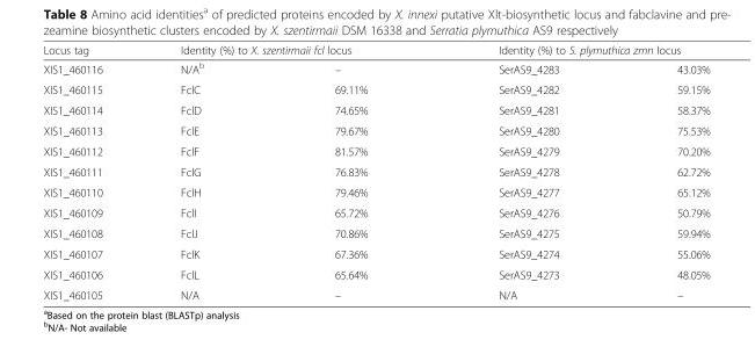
<table><thead><tr><td rowspan="2">Locus tag XIS1_460116</td><td colspan="2">Identity (%) to X. szentirmaii fcl locus</td><td colspan="2">Identity (%) to S. plymuthica zmn locus</td></tr><tr><td>N/A<sup>b</sup></td><td>–</td><td>SerAS9_4283</td><td>43.03%</td></tr></thead><tbody><tr><td>XIS1_460115</td><td>FclC</td><td>69.11%</td><td>SerAS9_4282</td><td>59.15%</td></tr><tr><td>XIS1_460114</td><td>FclD</td><td>74.65%</td><td>SerAS9_4281</td><td>58.37%</td></tr><tr><td>XIS1_460113</td><td>FclE</td><td>79.67%</td><td>SerAS9_4280</td><td>75.53%</td></tr><tr><td>XIS1_460112</td><td>FclF</td><td>81.57%</td><td>SerAS9_4279</td><td>70.20%</td></tr><tr><td>XIS1_460111</td><td>FclG</td><td>76.83%</td><td>SerAS9_4278</td><td>62.72%</td></tr><tr><td>XIS1_460110</td><td>FclH</td><td>79.46%</td><td>SerAS9_4277</td><td>65.12%</td></tr><tr><td>XIS1_460109</td><td>FclI</td><td>65.72%</td><td>SerAS9_4276</td><td>50.79%</td></tr><tr><td>XIS1_460108</td><td>FclJ</td><td>70.86%</td><td>SerAS9_4275</td><td>59.94%</td></tr><tr><td>XIS1_460107</td><td>FclK</td><td>67.36%</td><td>SerAS9_4274</td><td>55.06%</td></tr><tr><td>XIS1_460106</td><td>FclL</td><td>65.64%</td><td>SerAS9_4273</td><td>48.05%</td></tr><tr><td>XIS1_460105</td><td>N/A</td><td>–</td><td>N/A</td><td>–</td></tr></tbody></table>